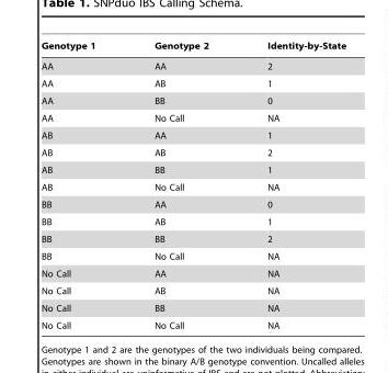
<table><thead><tr><td>Genotype 1</td><td>Genotype 2</td><td>Identity-by-State</td></tr></thead><tbody><tr><td>AA</td><td>AA</td><td>2</td></tr><tr><td>AA</td><td>AB</td><td>1</td></tr><tr><td>AA</td><td>BB</td><td>0</td></tr><tr><td>AA</td><td>No Call</td><td>NA</td></tr><tr><td>AB</td><td>AA</td><td>1</td></tr><tr><td>AB</td><td>AB</td><td>2</td></tr><tr><td>AB</td><td>BB</td><td>1</td></tr><tr><td>AB</td><td>No Call</td><td>NA</td></tr><tr><td>BB</td><td>AA</td><td>0</td></tr><tr><td>BB</td><td>AB</td><td>1</td></tr><tr><td>BB</td><td>BB</td><td>2</td></tr><tr><td>BB</td><td>No Call</td><td>NA</td></tr><tr><td>No Call</td><td>AA</td><td>NA</td></tr><tr><td>No Call</td><td>AB</td><td>NA</td></tr><tr><td>No Call</td><td>BB</td><td>NA</td></tr><tr><td>No Call</td><td>No Call</td><td>NA</td></tr></tbody></table>